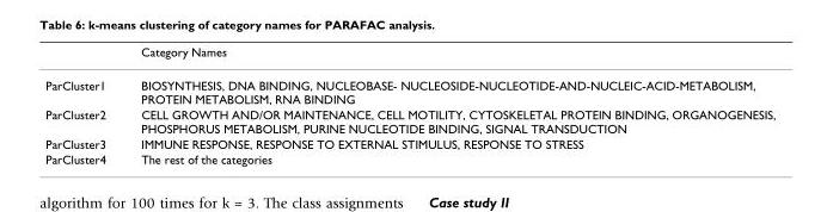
<table><thead><tr><td></td><td>Category Names</td></tr></thead><tbody><tr><td>ParCluster1</td><td>BIOSYNTHESIS, DNA BINDING, NUCLEOBASE- NUCLEOSIDE-NUCLEOTIDE-AND-NUCLEIC-ACID-METABOLISM, PROTEIN METABOLISM, RNA BINDING</td></tr><tr><td>ParCluster2</td><td>CELL GROWTH AND/OR MAINTENANCE, CELL MOTILITY, CYTOSKELETAL PROTEIN BINDING, ORGANOGENESIS, PHOSPHORUS METABOLISM, PURINE NUCLEOTIDE BINDING, SIGNAL TRANSDUCTION</td></tr><tr><td>ParCluster3</td><td>IMMUNE RESPONSE, RESPONSE TO EXTERNAL STIMULUS, RESPONSE TO STRESS</td></tr><tr><td>ParCluster4</td><td>The rest of the categories</td></tr></tbody></table>